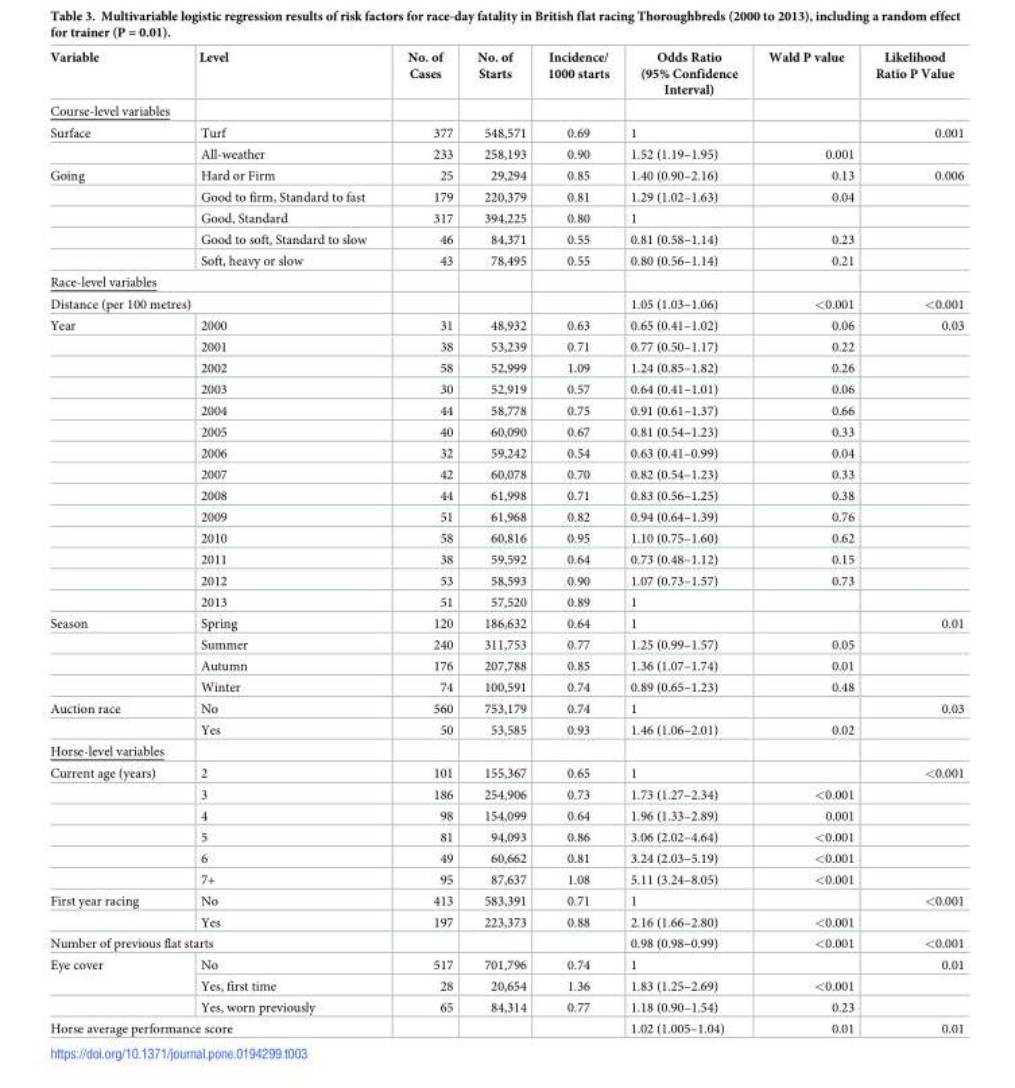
<table><thead><tr><td>Variable</td><td>Level</td><td>No. of Cases</td><td>No. of Starts</td><td>Incidence/ 1000 starts</td><td>Odds Ratio (95% Confidence Interval)</td><td>Wald P value</td><td>Likelihood Ratio P Value</td></tr></thead><tbody><tr><td colspan="8">Course-level variables</td></tr><tr><td rowspan="2">Surface</td><td>Turf</td><td>377</td><td>548,571</td><td>0.69</td><td>1</td><td></td><td>0.001</td></tr><tr><td>All-weather</td><td>233</td><td>258,193</td><td>0.90</td><td>1.52 (1.19–1.95)</td><td>0.001</td><td></td></tr><tr><td rowspan="5">Going</td><td>Hard or Firm</td><td>25</td><td>29,294</td><td>0.85</td><td>1.40 (0.90–2.16)</td><td>0.13</td><td>0.006</td></tr><tr><td>Good to firm, Standard to fast</td><td>179</td><td>220,379</td><td>0.81</td><td>1.29 (1.02–1.63)</td><td>0.04</td><td></td></tr><tr><td>Good, Standard</td><td>317</td><td>394,225</td><td>0.80</td><td>1</td><td></td><td></td></tr><tr><td>Good to soft, Standard to slow</td><td>46</td><td>84,371</td><td>0.55</td><td>0.81 (0.58–1.14)</td><td>0.23</td><td></td></tr><tr><td>Soft, heavy or slow</td><td>43</td><td>78,495</td><td>0.55</td><td>0.80 (0.56–1.14)</td><td>0.21</td><td></td></tr><tr><td colspan="8">Race-level variables</td></tr><tr><td colspan="2">Distance (per 100 metres)</td><td></td><td></td><td></td><td>1.05 (1.03–1.06)</td><td>&lt;0.001</td><td>&lt;0.001</td></tr><tr><td rowspan="14">Year</td><td>2000</td><td>31</td><td>48,932</td><td>0.63</td><td>0.65 (0.41–1.02)</td><td>0.06</td><td>0.03</td></tr><tr><td>2001</td><td>38</td><td>53,239</td><td>0.71</td><td>0.77 (0.50–1.17)</td><td>0.22</td><td></td></tr><tr><td>2002</td><td>58</td><td>52,999</td><td>1.09</td><td>1.24 (0.85–1.82)</td><td>0.26</td><td></td></tr><tr><td>2003</td><td>30</td><td>52,919</td><td>0.57</td><td>0.64 (0.41–1.01)</td><td>0.06</td><td></td></tr><tr><td>2004</td><td>44</td><td>58,778</td><td>0.75</td><td>0.91 (0.61–1.37)</td><td>0.66</td><td></td></tr><tr><td>2005</td><td>40</td><td>60,090</td><td>0.67</td><td>0.81 (0.54–1.23)</td><td>0.33</td><td></td></tr><tr><td>2006</td><td>32</td><td>59,242</td><td>0.54</td><td>0.63 (0.41–0.99)</td><td>0.04</td><td></td></tr><tr><td>2007</td><td>42</td><td>60,078</td><td>0.70</td><td>0.82 (0.54–1.23)</td><td>0.33</td><td></td></tr><tr><td>2008</td><td>44</td><td>61,998</td><td>0.71</td><td>0.83 (0.56–1.25)</td><td>0.38</td><td></td></tr><tr><td>2009</td><td>51</td><td>61,968</td><td>0.82</td><td>0.94 (0.64–1.39)</td><td>0.76</td><td></td></tr><tr><td>2010</td><td>58</td><td>60,816</td><td>0.95</td><td>1.10 (0.75–1.60)</td><td>0.62</td><td></td></tr><tr><td>2011</td><td>38</td><td>59,592</td><td>0.64</td><td>0.73 (0.48–1.12)</td><td>0.15</td><td></td></tr><tr><td>2012</td><td>53</td><td>58,593</td><td>0.90</td><td>1.07 (0.73–1.57)</td><td>0.73</td><td></td></tr><tr><td>2013</td><td>51</td><td>57,520</td><td>0.89</td><td>1</td><td></td><td></td></tr><tr><td rowspan="4">Season</td><td>Spring</td><td>120</td><td>186,632</td><td>0.64</td><td>1</td><td></td><td>0.01</td></tr><tr><td>Summer</td><td>240</td><td>311,753</td><td>0.77</td><td>1.25 (0.99–1.57)</td><td>0.05</td><td></td></tr><tr><td>Autumn</td><td>176</td><td>207,788</td><td>0.85</td><td>1.36 (1.07–1.74)</td><td>0.01</td><td></td></tr><tr><td>Winter</td><td>74</td><td>100,591</td><td>0.74</td><td>0.89 (0.65–1.23)</td><td>0.48</td><td></td></tr><tr><td rowspan="2">Auction race</td><td>No</td><td>560</td><td>753,179</td><td>0.74</td><td>1</td><td></td><td>0.03</td></tr><tr><td>Yes</td><td>50</td><td>53,585</td><td>0.93</td><td>1.46 (1.06–2.01)</td><td>0.02</td><td></td></tr><tr><td colspan="8">Horse-level variables</td></tr><tr><td rowspan="6">Current age (years)</td><td>2</td><td>101</td><td>155,367</td><td>0.65</td><td>1</td><td></td><td>&lt;0.001</td></tr><tr><td>3</td><td>186</td><td>254,906</td><td>0.73</td><td>1.73 (1.27–2.34)</td><td>&lt;0.001</td><td></td></tr><tr><td>4</td><td>98</td><td>154,099</td><td>0.64</td><td>1.96 (1.33–2.89)</td><td>0.001</td><td></td></tr><tr><td>5</td><td>81</td><td>94,093</td><td>0.86</td><td>3.06 (2.02–4.64)</td><td>&lt;0.001</td><td></td></tr><tr><td>6</td><td>49</td><td>60,662</td><td>0.81</td><td>3.24 (2.03–5.19)</td><td>&lt;0.001</td><td></td></tr><tr><td>7+</td><td>95</td><td>87,637</td><td>1.08</td><td>5.11 (3.24–8.05)</td><td>&lt;0.001</td><td></td></tr><tr><td rowspan="2">First year racing</td><td>No</td><td>413</td><td>583,391</td><td>0.71</td><td>1</td><td></td><td>&lt;0.001</td></tr><tr><td>Yes</td><td>197</td><td>223,373</td><td>0.88</td><td>2.16 (1.66–2.80)</td><td>&lt;0.001</td><td></td></tr><tr><td colspan="2">Number of previous flat starts</td><td></td><td></td><td></td><td>0.98 (0.98–0.99)</td><td>&lt;0.001</td><td>&lt;0.001</td></tr><tr><td rowspan="3">Eye cover</td><td>No</td><td>517</td><td>701,796</td><td>0.74</td><td>1</td><td></td><td>0.01</td></tr><tr><td>Yes, first time</td><td>28</td><td>20,654</td><td>1.36</td><td>1.83 (1.25–2.69)</td><td>&lt;0.001</td><td></td></tr><tr><td>Yes, worn previously</td><td>65</td><td>84,314</td><td>0.77</td><td>1.18 (0.90–1.54)</td><td>0.23</td><td></td></tr><tr><td colspan="2">Horse average performance score</td><td></td><td></td><td></td><td>1.02 (1.005–1.04)</td><td>0.01</td><td>0.01</td></tr></tbody></table>